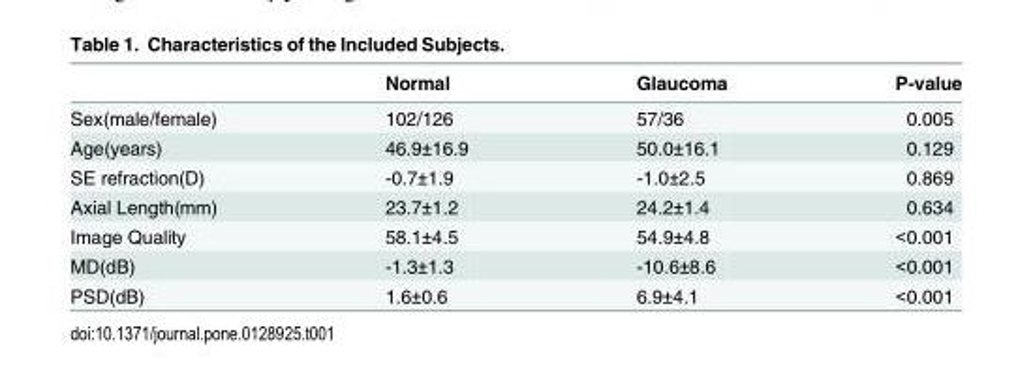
<table><thead><tr><td></td><td>Normal</td><td>Glaucoma</td><td>P-value</td></tr></thead><tbody><tr><td>Sex(male/female)</td><td>102/126</td><td>57/36</td><td>0.005</td></tr><tr><td>Age(years)</td><td>46.9±16.9</td><td>50.0±16.1</td><td>0.129</td></tr><tr><td>SE refraction(D)</td><td>-0.7±1.9</td><td>-1.0±2.5</td><td>0.869</td></tr><tr><td>Axial Length(mm)</td><td>23.7±1.2</td><td>24.2±1.4</td><td>0.634</td></tr><tr><td>Image Quality</td><td>58.1±4.5</td><td>54.9±4.8</td><td>&lt;0.001</td></tr><tr><td>MD(dB)</td><td>-1.3±1.3</td><td>-10.6±8.6</td><td>&lt;0.001</td></tr><tr><td>PSD(dB)</td><td>1.6±0.6</td><td>6.9±4.1</td><td>&lt;0.001</td></tr></tbody></table>